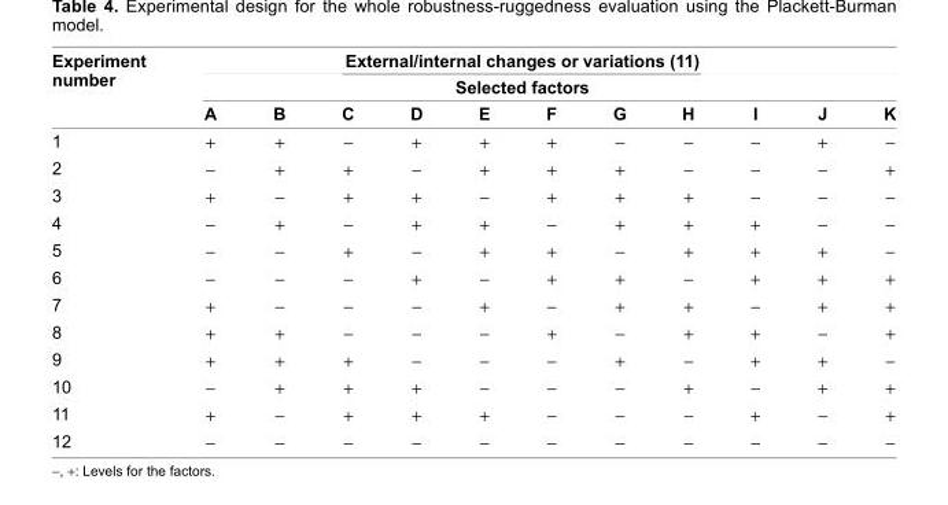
<table><thead><tr><td rowspan="3">Experiment number</td><td></td><td></td><td colspan="6">External/internal changes or variations (11)</td><td></td><td></td><td></td></tr><tr><td colspan="11">Selected factors</td></tr><tr><td>A</td><td>B</td><td>C</td><td>D</td><td>E</td><td>F</td><td>G</td><td>H</td><td>I</td><td>J</td><td>K</td></tr></thead><tbody><tr><td>1</td><td>+</td><td>+</td><td>−</td><td>+</td><td>+</td><td>+</td><td>−</td><td>−</td><td>−</td><td>+</td><td>−</td></tr><tr><td>2</td><td>−</td><td>+</td><td>+</td><td>−</td><td>+</td><td>+</td><td>+</td><td>−</td><td>−</td><td>−</td><td>+</td></tr><tr><td>3</td><td>+</td><td>−</td><td>+</td><td>+</td><td>−</td><td>+</td><td>+</td><td>+</td><td>−</td><td>−</td><td>−</td></tr><tr><td>4</td><td>−</td><td>+</td><td>−</td><td>+</td><td>+</td><td>−</td><td>+</td><td>+</td><td>+</td><td>−</td><td>−</td></tr><tr><td>5</td><td>−</td><td>−</td><td>+</td><td>−</td><td>+</td><td>+</td><td>−</td><td>+</td><td>+</td><td>+</td><td>−</td></tr><tr><td>6</td><td>−</td><td>−</td><td>−</td><td>+</td><td>−</td><td>+</td><td>+</td><td>−</td><td>+</td><td>+</td><td>+</td></tr><tr><td>7</td><td>+</td><td>−</td><td>−</td><td>−</td><td>+</td><td>−</td><td>+</td><td>+</td><td>−</td><td>+</td><td>+</td></tr><tr><td>8</td><td>+</td><td>+</td><td>−</td><td>−</td><td>−</td><td>+</td><td>−</td><td>+</td><td>+</td><td>−</td><td>+</td></tr><tr><td>9</td><td>+</td><td>+</td><td>+</td><td>−</td><td>−</td><td>−</td><td>+</td><td>−</td><td>+</td><td>+</td><td>−</td></tr><tr><td>10</td><td>−</td><td>+</td><td>+</td><td>+</td><td>−</td><td>−</td><td>−</td><td>+</td><td>−</td><td>+</td><td>+</td></tr><tr><td>11</td><td>+</td><td>−</td><td>+</td><td>+</td><td>+</td><td>−</td><td>−</td><td>−</td><td>+</td><td>−</td><td>+</td></tr><tr><td>12</td><td>−</td><td>−</td><td>−</td><td>−</td><td>−</td><td>−</td><td>−</td><td>−</td><td>−</td><td>−</td><td>−</td></tr></tbody></table>